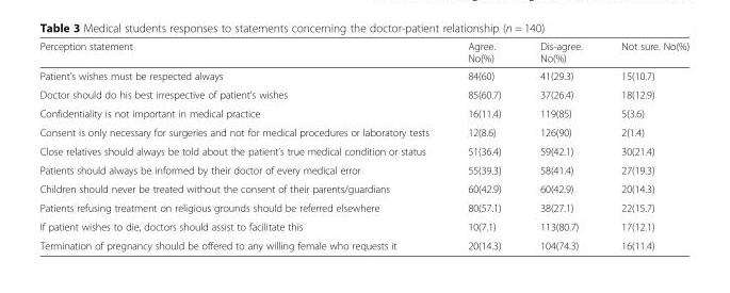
<table><thead><tr><td>Perception statement</td><td>Agree. No(%)</td><td>Dis-agree. No(%)</td><td>Not sure. No(%)</td></tr></thead><tbody><tr><td>Patient’s wishes must be respected always</td><td>84(60)</td><td>41(29.3)</td><td>15(10.7)</td></tr><tr><td>Doctor should do his best irrespective of patient’s wishes</td><td>85(60.7)</td><td>37(26.4)</td><td>18(12.9)</td></tr><tr><td>Confidentiality is not important in medical practice</td><td>16(11.4)</td><td>119(85)</td><td>5(3.6)</td></tr><tr><td>Consent is only necessary for surgeries and not for medical procedures or laboratory tests</td><td>12(8.6)</td><td>126(90)</td><td>2(1.4)</td></tr><tr><td>Close relatives should always be told about the patient’s true medical condition or status</td><td>51(36.4)</td><td>59(42.1)</td><td>30(21.4)</td></tr><tr><td>Patients should always be informed by their doctor of every medical error</td><td>55(39.3)</td><td>58(41.4)</td><td>27(19.3)</td></tr><tr><td>Children should never be treated without the consent of their parents/guardians</td><td>60(42.9)</td><td>60(42.9)</td><td>20(14.3)</td></tr><tr><td>Patients refusing treatment on religious grounds should be referred elsewhere</td><td>80(57.1)</td><td>38(27.1)</td><td>22(15.7)</td></tr><tr><td>If patient wishes to die, doctors should assist to facilitate this</td><td>10(7.1)</td><td>113(80.7)</td><td>17(12.1)</td></tr><tr><td>Termination of pregnancy should be offered to any willing female who requests it</td><td>20(14.3)</td><td>104(74.3)</td><td>16(11.4)</td></tr></tbody></table>